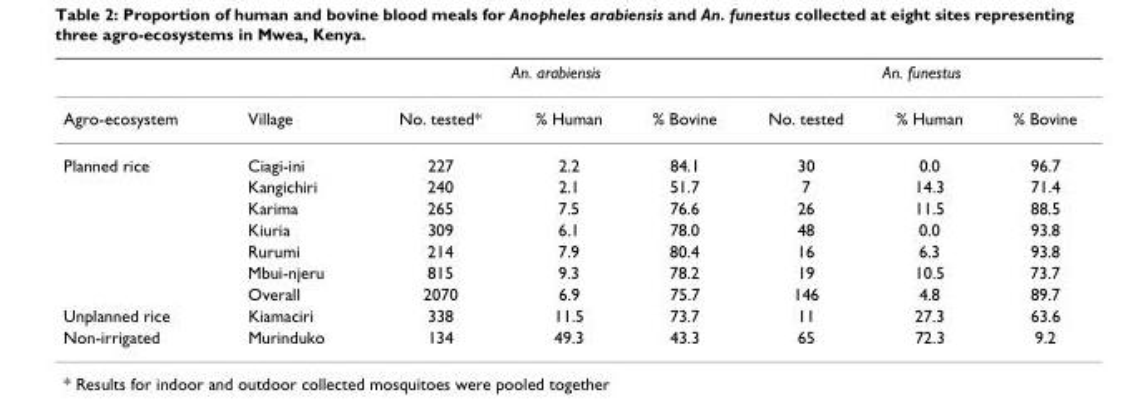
<table><thead><tr><td rowspan="2">Agro-ecosystem</td><td rowspan="2">Village</td><td colspan="3">An. arabiensis</td><td colspan="3">An. funestus</td></tr><tr><td>No. tested*</td><td>% Human</td><td>% Bovine</td><td>No. tested</td><td>% Human</td><td>% Bovine</td></tr></thead><tbody><tr><td rowspan="7">Planned rice</td><td>Ciagi-ini</td><td>227</td><td>2.2</td><td>84.1</td><td>30</td><td>0.0</td><td>96.7</td></tr><tr><td>Kangichiri</td><td>240</td><td>2.1</td><td>51.7</td><td>7</td><td>14.3</td><td>71.4</td></tr><tr><td>Karima</td><td>265</td><td>7.5</td><td>76.6</td><td>26</td><td>11.5</td><td>88.5</td></tr><tr><td>Kiuria</td><td>309</td><td>6.1</td><td>78.0</td><td>48</td><td>0.0</td><td>93.8</td></tr><tr><td>Rurumi</td><td>214</td><td>7.9</td><td>80.4</td><td>16</td><td>6.3</td><td>93.8</td></tr><tr><td>Mbui-njeru</td><td>815</td><td>9.3</td><td>78.2</td><td>19</td><td>10.5</td><td>73.7</td></tr><tr><td>Overall</td><td>2070</td><td>6.9</td><td>75.7</td><td>146</td><td>4.8</td><td>89.7</td></tr><tr><td>Unplanned rice</td><td>Kiamaciri</td><td>338</td><td>11.5</td><td>73.7</td><td>11</td><td>27.3</td><td>63.6</td></tr><tr><td>Non-irrigated</td><td>Murinduko</td><td>134</td><td>49.3</td><td>43.3</td><td>65</td><td>72.3</td><td>9.2</td></tr></tbody></table>